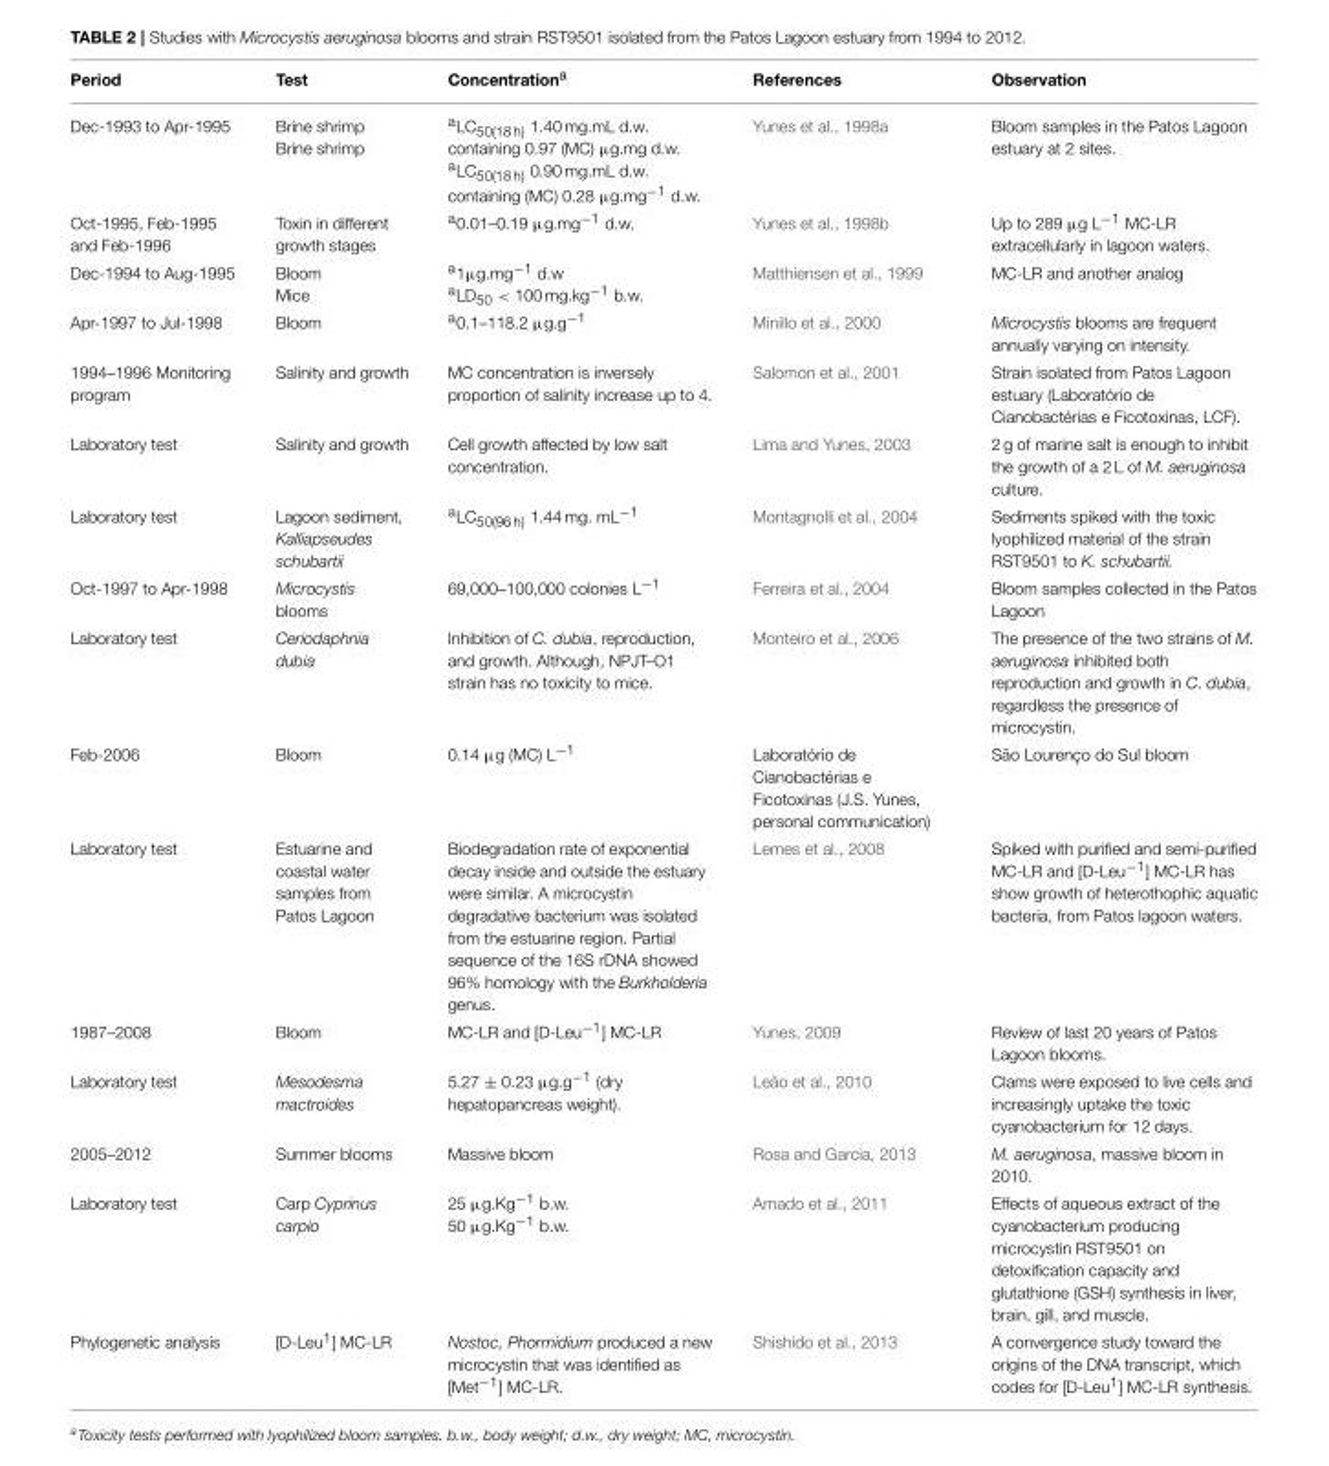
<table><thead><tr><td>Period</td><td>Test</td><td>Concentration<sup>a</sup></td><td>References</td><td>Observation</td></tr></thead><tbody><tr><td>Dec-1993 to Apr-1995</td><td>Brine shrimp Brine shrimp</td><td><sup>a</sup>LC<sub>50(18 h)</sub> 1.40 mg.mL d.w. containing 0.97 (MC) µg.mg d.w. <sup>a</sup>LC<sub>50(18 h)</sub> 0.90 mg.mL d.w. containing (MC) 0.28 µg.mg<sup>−1</sup> d.w.</td><td>Yunes et al., 1998a</td><td>Bloom samples in the Patos Lagoon estuary at 2 sites.</td></tr><tr><td>Oct-1995, Feb-1995 and Feb-1996</td><td>Toxin in different growth stages</td><td><sup>a</sup>0.01–0.19 µg.mg<sup>−1</sup> d.w.</td><td>Yunes et al., 1998b</td><td>Up to 289 µg L<sup>−1</sup> MC-LR extracellularly in lagoon waters.</td></tr><tr><td>Dec-1994 to Aug-1995</td><td>Bloom Mice</td><td><sup>a</sup>1µg.mg<sup>−1</sup> d.w <sup>a</sup>LD<sub>50</sub> &lt; 100 mg.kg<sup>−1</sup> b.w.</td><td>Matthiensen et al., 1999</td><td>MC-LR and another analog</td></tr><tr><td>Apr-1997 to Jul-1998</td><td>Bloom</td><td><sup>a</sup>0.1–118.2 µg.g<sup>−1</sup></td><td>Minillo et al., 2000</td><td>Microcystis blooms are frequent annually varying on intensity.</td></tr><tr><td>1994–1996 Monitoring program</td><td>Salinity and growth</td><td>MC concentration is inversely proportion of salinity increase up to 4.</td><td>Salomon et al., 2001</td><td>Strain isolated from Patos Lagoon estuary (Laboratório de Cianobactérias e Ficotoxinas, LCF).</td></tr><tr><td>Laboratory test</td><td>Salinity and growth</td><td>Cell growth affected by low salt concentration.</td><td>Lima and Yunes, 2003</td><td>2 g of marine salt is enough to inhibit the growth of a 2 L of M. aeruginosa culture.</td></tr><tr><td>Laboratory test</td><td>Lagoon sediment, Kalliapseudes schubartii</td><td><sup>a</sup>LC<sub>50(96 h)</sub> 1.44 mg. mL<sup>−1</sup></td><td>Montagnolli et al., 2004</td><td>Sediments spiked with the toxic lyophilized material of the strain RST9501 to K. schubartii.</td></tr><tr><td>Oct-1997 to Apr-1998</td><td>Microcystis blooms</td><td>69,000–100,000 colonies L<sup>−1</sup></td><td>Ferreira et al., 2004</td><td>Bloom samples collected in the Patos Lagoon</td></tr><tr><td>Laboratory test</td><td>Ceriodaphnia dubia</td><td>Inhibition of C. dubia, reproduction, and growth. Although, NPJT–O1 strain has no toxicity to mice.</td><td>Monteiro et al., 2006</td><td>The presence of the two strains of M. aeruginosa inhibited both reproduction and growth in C. dubia, regardless the presence of microcystin.</td></tr><tr><td>Feb-2006</td><td>Bloom</td><td>0.14 µg (MC) L<sup>−1</sup></td><td>Laboratório de Cianobactérias e Ficotoxinas (J.S. Yunes, personal communication)</td><td>São Lourenço do Sul bloom</td></tr><tr><td>Laboratory test</td><td>Estuarine and coastal water samples from Patos Lagoon</td><td>Biodegradation rate of exponential decay inside and outside the estuary were similar. A microcystin degradative bacterium was isolated from the estuarine region. Partial sequence of the 16S rDNA showed 96% homology with the Burkholderia genus.</td><td>Lemes et al., 2008</td><td>Spiked with purified and semi-purified MC-LR and [D-Leu<sup>−1</sup>] MC-LR has show growth of heterothophic aquatic bacteria, from Patos lagoon waters.</td></tr><tr><td>1987–2008</td><td>Bloom</td><td>MC-LR and [D-Leu<sup>−1</sup>] MC-LR</td><td>Yunes, 2009</td><td>Review of last 20 years of Patos Lagoon blooms.</td></tr><tr><td>Laboratory test</td><td>Mesodesma mactroides</td><td>5.27 ± 0.23 µg.g<sup>−1</sup> (dry hepatopancreas weight).</td><td>Leão et al., 2010</td><td>Clams were exposed to live cells and increasingly uptake the toxic cyanobacterium for 12 days.</td></tr><tr><td>2005–2012</td><td>Summer blooms</td><td>Massive bloom</td><td>Rosa and Garcia, 2013</td><td>M. aeruginosa, massive bloom in 2010.</td></tr><tr><td>Laboratory test</td><td>Carp Cyprinus carpio</td><td>25 µg.Kg<sup>−1</sup> b.w. 50 µg.Kg<sup>−1</sup> b.w.</td><td>Amado et al., 2011</td><td>Effects of aqueous extract of the cyanobacterium producing microcystin RST9501 on detoxification capacity and glutathione (GSH) synthesis in liver, brain, gill, and muscle.</td></tr><tr><td>Phylogenetic analysis</td><td>[D-Leu<sup>1</sup>] MC-LR</td><td>Nostoc, Phormidium produced a new microcystin that was identified as [Met<sup>−1</sup>] MC-LR.</td><td>Shishido et al., 2013</td><td>A convergence study toward the origins of the DNA transcript, which codes for [D-Leu<sup>1</sup>] MC-LR synthesis.</td></tr></tbody></table>